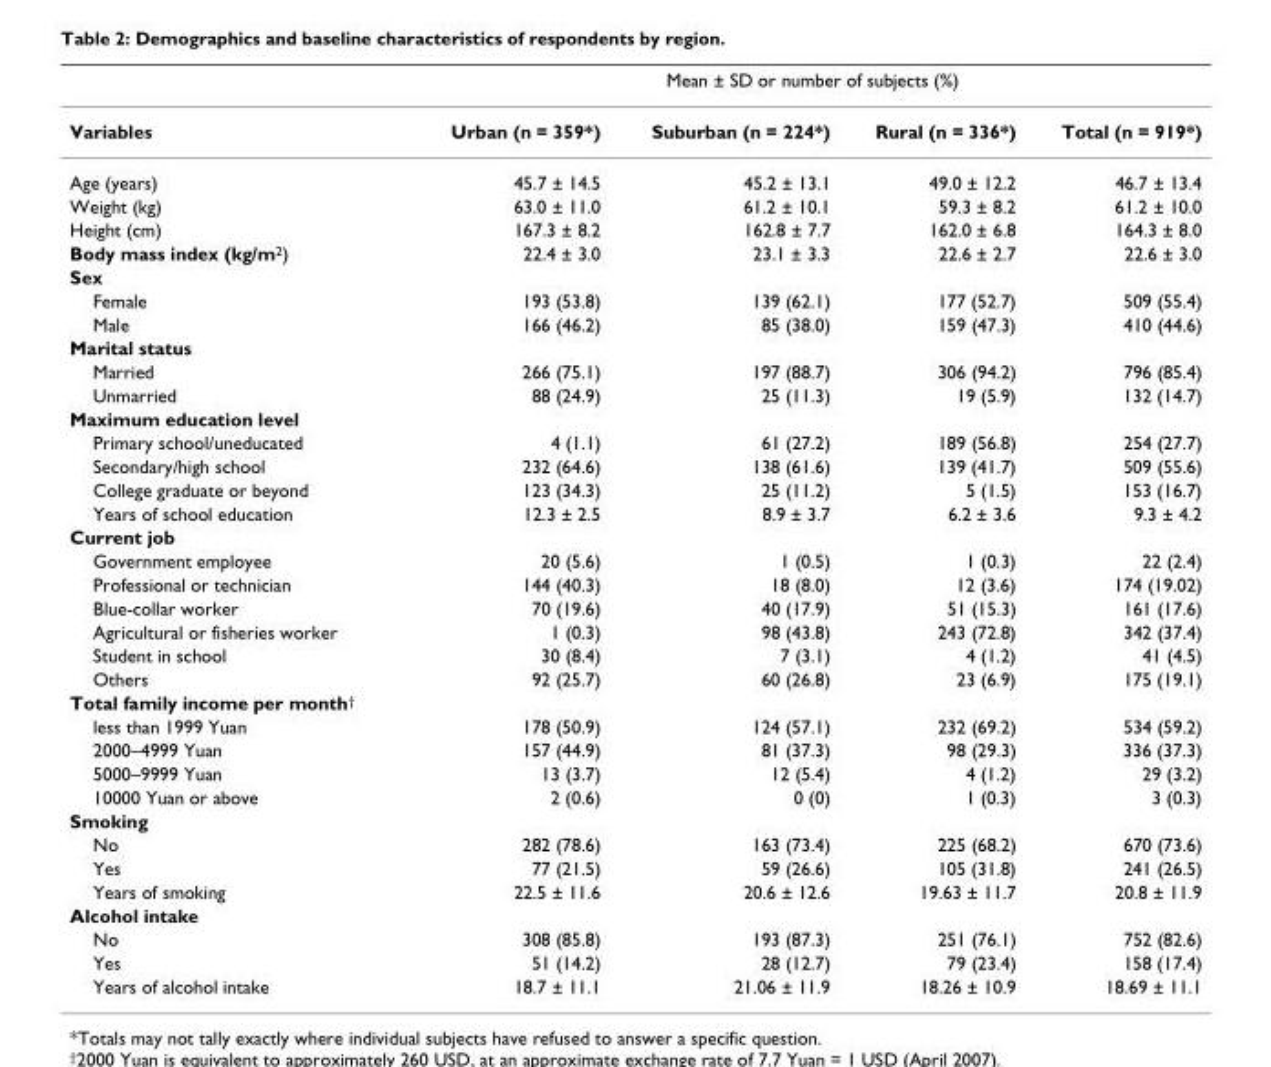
<table><thead><tr><td rowspan="2">Variables</td><td colspan="4">Mean ± SD or number of subjects (%)</td></tr><tr><td>Urban (n = 359*)</td><td>Suburban (n = 224*)</td><td>Rural (n = 336*)</td><td>Total (n = 919*)</td></tr></thead><tbody><tr><td>Age (years)</td><td>45.7 ± 14.5</td><td>45.2 ± 13.1</td><td>49.0 ± 12.2</td><td>46.7 ± 13.4</td></tr><tr><td>Weight (kg)</td><td>63.0 ± 11.0</td><td>61.2 ± 10.1</td><td>59.3 ± 8.2</td><td>61.2 ± 10.0</td></tr><tr><td>Height (cm)</td><td>167.3 ± 8.2</td><td>162.8 ± 7.7</td><td>162.0 ± 6.8</td><td>164.3 ± 8.0</td></tr><tr><td>Body mass index (kg/m<sup>2</sup>)</td><td>22.4 ± 3.0</td><td>23.1 ± 3.3</td><td>22.6 ± 2.7</td><td>22.6 ± 3.0</td></tr><tr><td colspan="5">Sex</td></tr><tr><td>Female</td><td>193 (53.8)</td><td>139 (62.1)</td><td>177 (52.7)</td><td>509 (55.4)</td></tr><tr><td>Male</td><td>166 (46.2)</td><td>85 (38.0)</td><td>159 (47.3)</td><td>410 (44.6)</td></tr><tr><td colspan="5">Marital status</td></tr><tr><td>Married</td><td>266 (75.1)</td><td>197 (88.7)</td><td>306 (94.2)</td><td>796 (85.4)</td></tr><tr><td>Unmarried</td><td>88 (24.9)</td><td>25 (11.3)</td><td>19 (5.9)</td><td>132 (14.7)</td></tr><tr><td colspan="5">Maximum education level</td></tr><tr><td>Primary school/uneducated</td><td>4 (1.1)</td><td>61 (27.2)</td><td>189 (56.8)</td><td>254 (27.7)</td></tr><tr><td>Secondary/high school</td><td>232 (64.6)</td><td>138 (61.6)</td><td>139 (41.7)</td><td>509 (55.6)</td></tr><tr><td>College graduate or beyond</td><td>123 (34.3)</td><td>25 (11.2)</td><td>5 (1.5)</td><td>153 (16.7)</td></tr><tr><td>Years of school education</td><td>12.3 ± 2.5</td><td>8.9 ± 3.7</td><td>6.2 ± 3.6</td><td>9.3 ± 4.2</td></tr><tr><td colspan="5">Current job</td></tr><tr><td>Government employee</td><td>20 (5.6)</td><td>1 (0.5)</td><td>1 (0.3)</td><td>22 (2.4)</td></tr><tr><td>Professional or technician</td><td>144 (40.3)</td><td>18 (8.0)</td><td>12 (3.6)</td><td>174 (19.02)</td></tr><tr><td>Blue-collar worker</td><td>70 (19.6)</td><td>40 (17.9)</td><td>51 (15.3)</td><td>161 (17.6)</td></tr><tr><td>Agricultural or fisheries worker</td><td>1 (0.3)</td><td>98 (43.8)</td><td>243 (72.8)</td><td>342 (37.4)</td></tr><tr><td>Student in school</td><td>30 (8.4)</td><td>7 (3.1)</td><td>4 (1.2)</td><td>41 (4.5)</td></tr><tr><td>Others</td><td>92 (25.7)</td><td>60 (26.8)</td><td>23 (6.9)</td><td>175 (19.1)</td></tr><tr><td colspan="5">Total family income per month<sup>†</sup></td></tr><tr><td>less than 1999 Yuan</td><td>178 (50.9)</td><td>124 (57.1)</td><td>232 (69.2)</td><td>534 (59.2)</td></tr><tr><td>2000–4999 Yuan</td><td>157 (44.9)</td><td>81 (37.3)</td><td>98 (29.3)</td><td>336 (37.3)</td></tr><tr><td>5000–9999 Yuan</td><td>13 (3.7)</td><td>12 (5.4)</td><td>4 (1.2)</td><td>29 (3.2)</td></tr><tr><td>10000 Yuan or above</td><td>2 (0.6)</td><td>0 (0)</td><td>1 (0.3)</td><td>3 (0.3)</td></tr><tr><td colspan="5">Smoking</td></tr><tr><td>No</td><td>282 (78.6)</td><td>163 (73.4)</td><td>225 (68.2)</td><td>670 (73.6)</td></tr><tr><td>Yes</td><td>77 (21.5)</td><td>59 (26.6)</td><td>105 (31.8)</td><td>241 (26.5)</td></tr><tr><td>Years of smoking</td><td>22.5 ± 11.6</td><td>20.6 ± 12.6</td><td>19.63 ± 11.7</td><td>20.8 ± 11.9</td></tr><tr><td colspan="5">Alcohol intake</td></tr><tr><td>No</td><td>308 (85.8)</td><td>193 (87.3)</td><td>251 (76.1)</td><td>752 (82.6)</td></tr><tr><td>Yes</td><td>51 (14.2)</td><td>28 (12.7)</td><td>79 (23.4)</td><td>158 (17.4)</td></tr><tr><td>Years of alcohol intake</td><td>18.7 ± 11.1</td><td>21.06 ± 11.9</td><td>18.26 ± 10.9</td><td>18.69 ± 11.1</td></tr></tbody></table>